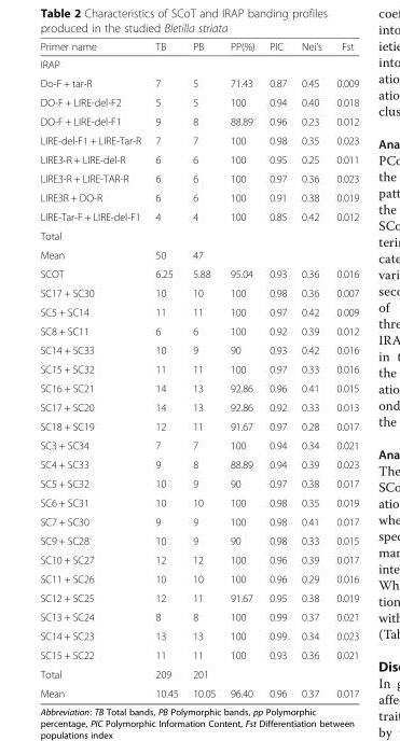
<table><thead><tr><td>Primer name</td><td>TB</td><td>PB</td><td>PP(%)</td><td>PIC</td><td>Nei’s</td><td>Fst</td></tr></thead><tbody><tr><td colspan="7">IRAP</td></tr><tr><td>Do-F + tar-R</td><td>7</td><td>5</td><td>71.43</td><td>0.87</td><td>0.45</td><td>0.009</td></tr><tr><td>DO-F + LIRE-del-F2</td><td>5</td><td>5</td><td>100</td><td>0.94</td><td>0.40</td><td>0.018</td></tr><tr><td>DO-F + LIRE-del-F1</td><td>9</td><td>8</td><td>88.89</td><td>0.96</td><td>0.23</td><td>0.012</td></tr><tr><td>LIRE-del-F1 + LIRE-Tar-R</td><td>7</td><td>7</td><td>100</td><td>0.98</td><td>0.35</td><td>0.023</td></tr><tr><td>LIRE3-R + LIRE-del-R</td><td>6</td><td>6</td><td>100</td><td>0.95</td><td>0.25</td><td>0.011</td></tr><tr><td>LIRE3-R + LIRE-TAR-R</td><td>6</td><td>6</td><td>100</td><td>0.97</td><td>0.36</td><td>0.023</td></tr><tr><td>LIRE3R + DO-R</td><td>6</td><td>6</td><td>100</td><td>0.91</td><td>0.38</td><td>0.019</td></tr><tr><td>LIRE-Tar-F + LIRE-del-F1</td><td>4</td><td>4</td><td>100</td><td>0.85</td><td>0.42</td><td>0.012</td></tr><tr><td colspan="7">Total</td></tr><tr><td>Mean</td><td>50</td><td>47</td><td></td><td></td><td></td><td></td></tr><tr><td>SCOT</td><td>6.25</td><td>5.88</td><td>95.04</td><td>0.93</td><td>0.36</td><td>0.016</td></tr><tr><td>SC17 + SC30</td><td>10</td><td>10</td><td>100</td><td>0.98</td><td>0.36</td><td>0.007</td></tr><tr><td>SC5 + SC14</td><td>11</td><td>11</td><td>100</td><td>0.97</td><td>0.42</td><td>0.009</td></tr><tr><td>SC8 + SC11</td><td>6</td><td>6</td><td>100</td><td>0.92</td><td>0.39</td><td>0.012</td></tr><tr><td>SC14 + SC33</td><td>10</td><td>9</td><td>90</td><td>0.93</td><td>0.42</td><td>0.016</td></tr><tr><td>SC15 + SC32</td><td>11</td><td>11</td><td>100</td><td>0.97</td><td>0.33</td><td>0.016</td></tr><tr><td>SC16 + SC21</td><td>14</td><td>13</td><td>92.86</td><td>0.96</td><td>0.41</td><td>0.015</td></tr><tr><td>SC17 + SC20</td><td>14</td><td>13</td><td>92.86</td><td>0.92</td><td>0.33</td><td>0.013</td></tr><tr><td>SC18 + SC19</td><td>12</td><td>11</td><td>91.67</td><td>0.97</td><td>0.28</td><td>0.017</td></tr><tr><td>SC3 + SC34</td><td>7</td><td>7</td><td>100</td><td>0.94</td><td>0.34</td><td>0.021</td></tr><tr><td>SC4 + SC33</td><td>9</td><td>8</td><td>88.89</td><td>0.94</td><td>0.39</td><td>0.023</td></tr><tr><td>SC5 + SC32</td><td>10</td><td>9</td><td>90</td><td>0.97</td><td>0.38</td><td>0.017</td></tr><tr><td>SC6 + SC31</td><td>10</td><td>10</td><td>100</td><td>0.98</td><td>0.35</td><td>0.019</td></tr><tr><td>SC7 + SC30</td><td>9</td><td>9</td><td>100</td><td>0.98</td><td>0.41</td><td>0.017</td></tr><tr><td>SC9 + SC28</td><td>10</td><td>9</td><td>90</td><td>0.98</td><td>0.33</td><td>0.015</td></tr><tr><td>SC10 + SC27</td><td>12</td><td>12</td><td>100</td><td>0.96</td><td>0.39</td><td>0.017</td></tr><tr><td>SC11 + SC26</td><td>10</td><td>10</td><td>100</td><td>0.96</td><td>0.29</td><td>0.016</td></tr><tr><td>SC12 + SC25</td><td>12</td><td>11</td><td>91.67</td><td>0.95</td><td>0.38</td><td>0.019</td></tr><tr><td>SC13 + SC24</td><td>8</td><td>8</td><td>100</td><td>0.99</td><td>0.37</td><td>0.021</td></tr><tr><td>SC14 + SC23</td><td>13</td><td>13</td><td>100</td><td>0.99</td><td>0.34</td><td>0.023</td></tr><tr><td>SC15 + SC22</td><td>11</td><td>11</td><td>100</td><td>0.93</td><td>0.36</td><td>0.021</td></tr><tr><td>Total</td><td>209</td><td>201</td><td></td><td></td><td></td><td></td></tr><tr><td>Mean</td><td>10.45</td><td>10.05</td><td>96.40</td><td>0.96</td><td>0.37</td><td>0.017</td></tr></tbody></table>